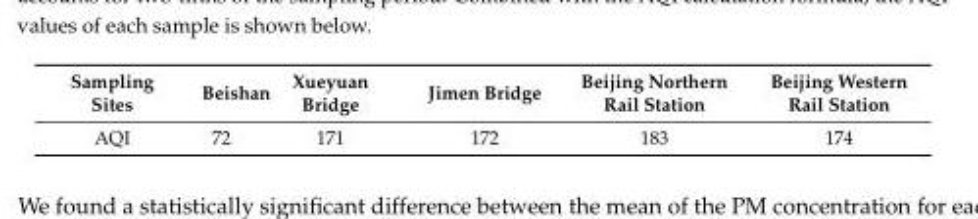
<table><thead><tr><td>Sampling Sites</td><td>Beishan</td><td>Xueyuan Bridge</td><td>Jimen Bridge</td><td>Beijing Northern Rail Station</td><td>Beijing Western Rail Station</td></tr></thead><tbody><tr><td>AQI</td><td>72</td><td>171</td><td>172</td><td>183</td><td>174</td></tr></tbody></table>